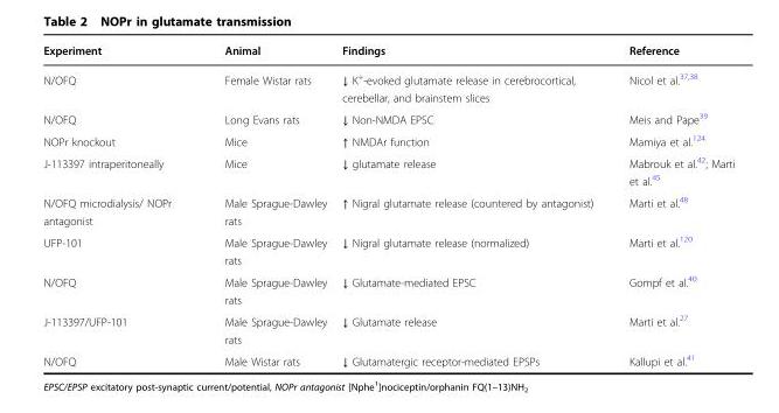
<table><thead><tr><td>Experiment</td><td>Animal</td><td>Findings</td><td>Reference</td></tr></thead><tbody><tr><td>N/OFQ</td><td>Female Wistar rats</td><td>↓ K<sup>+</sup>-evoked glutamate release in cerebrocortical, cerebellar, and brainstem slices</td><td>Nicol et al.<sup>37,38</sup></td></tr><tr><td>N/OFQ</td><td>Long Evans rats</td><td>↓ Non-NMDA EPSC</td><td>Meis and Pape<sup>39</sup></td></tr><tr><td>NOPr knockout</td><td>Mice</td><td>↑ NMDAr function</td><td>Mamiya et al.<sup>124</sup></td></tr><tr><td>J-113397 intraperitoneally</td><td>Mice</td><td>↓ glutamate release</td><td>Mabrouk et al.<sup>42</sup>; Marti et al.<sup>45</sup></td></tr><tr><td>N/OFQ microdialysis/ NOPr antagonist</td><td>Male Sprague-Dawley rats</td><td>↑ Nigral glutamate release (countered by antagonist)</td><td>Marti et al.<sup>48</sup></td></tr><tr><td>UFP-101</td><td>Male Sprague-Dawley rats</td><td>↓ Nigral glutamate release (normalized)</td><td>Marti et al.<sup>120</sup></td></tr><tr><td>N/OFQ</td><td>Male Sprague-Dawley rats</td><td>↓ Glutamate-mediated EPSC</td><td>Gompf et al.<sup>40</sup></td></tr><tr><td>J-113397/UFP-101</td><td>Male Sprague-Dawley rats</td><td>↓ Glutamate release</td><td>Marti et al.<sup>27</sup></td></tr><tr><td>N/OFQ</td><td>Male Wistar rats</td><td>↓ Glutamatergic receptor-mediated EPSPs</td><td>Kallupi et al.<sup>41</sup></td></tr></tbody></table>